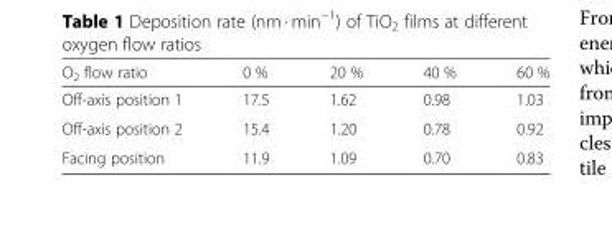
<table><thead><tr><td>O<sub>2</sub> flow ratio</td><td>0 %</td><td>20 %</td><td>40 %</td><td>60 %</td></tr></thead><tbody><tr><td>Off-axis position 1</td><td>17.5</td><td>1.62</td><td>0.98</td><td>1.03</td></tr><tr><td>Off-axis position 2</td><td>15.4</td><td>1.20</td><td>0.78</td><td>0.92</td></tr><tr><td>Facing position</td><td>11.9</td><td>1.09</td><td>0.70</td><td>0.83</td></tr></tbody></table>